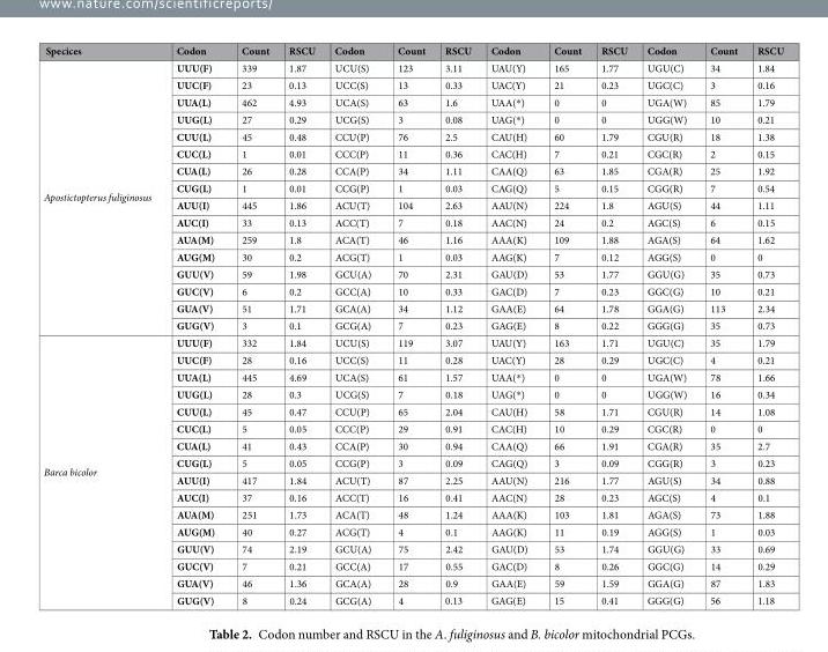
<table><thead><tr><td>Specices</td><td>Codon</td><td>Count</td><td>RSCU</td><td>Codon</td><td>Count</td><td>RSCU</td><td>Codon</td><td>Count</td><td>RSCU</td><td>Codon</td><td>Count</td><td>RSCU</td></tr></thead><tbody><tr><td rowspan="16">Apostictopterus fuliginosus</td><td>UUU(F)</td><td>339</td><td>1.87</td><td>UCU(S)</td><td>123</td><td>3.11</td><td>UAU(Y)</td><td>165</td><td>1.77</td><td>UGU(C)</td><td>34</td><td>1.84</td></tr><tr><td>UUC(F)</td><td>23</td><td>0.13</td><td>UCC(S)</td><td>13</td><td>0.33</td><td>UAC(Y)</td><td>21</td><td>0.23</td><td>UGC(C)</td><td>3</td><td>0.16</td></tr><tr><td>UUA(L)</td><td>462</td><td>4.93</td><td>UCA(S)</td><td>63</td><td>1.6</td><td>UAA(*)</td><td>0</td><td>0</td><td>UGA(W)</td><td>85</td><td>1.79</td></tr><tr><td>UUG(L)</td><td>27</td><td>0.29</td><td>UCG(S)</td><td>3</td><td>0.08</td><td>UAG(*)</td><td>0</td><td>0</td><td>UGG(W)</td><td>10</td><td>0.21</td></tr><tr><td>CUU(L)</td><td>45</td><td>0.48</td><td>CCU(P)</td><td>76</td><td>2.5</td><td>CAU(H)</td><td>60</td><td>1.79</td><td>CGU(R)</td><td>18</td><td>1.38</td></tr><tr><td>CUC(L)</td><td>1</td><td>0.01</td><td>CCC(P)</td><td>11</td><td>0.36</td><td>CAC(H)</td><td>7</td><td>0.21</td><td>CGC(R)</td><td>2</td><td>0.15</td></tr><tr><td>CUA(L)</td><td>26</td><td>0.28</td><td>CCA(P)</td><td>34</td><td>1.11</td><td>CAA(Q)</td><td>63</td><td>1.85</td><td>CGA(R)</td><td>25</td><td>1.92</td></tr><tr><td>CUG(L)</td><td>1</td><td>0.01</td><td>CCG(P)</td><td>1</td><td>0.03</td><td>CAG(Q)</td><td>5</td><td>0.15</td><td>CGG(R)</td><td>7</td><td>0.54</td></tr><tr><td>AUU(I)</td><td>445</td><td>1.86</td><td>ACU(T)</td><td>104</td><td>2.63</td><td>AAU(N)</td><td>224</td><td>1.8</td><td>AGU(S)</td><td>44</td><td>1.11</td></tr><tr><td>AUC(I)</td><td>33</td><td>0.13</td><td>ACC(T)</td><td>7</td><td>0.18</td><td>AAC(N)</td><td>24</td><td>0.2</td><td>AGC(S)</td><td>6</td><td>0.15</td></tr><tr><td>AUA(M)</td><td>259</td><td>1.8</td><td>ACA(T)</td><td>46</td><td>1.16</td><td>AAA(K)</td><td>109</td><td>1.88</td><td>AGA(S)</td><td>64</td><td>1.62</td></tr><tr><td>AUG(M)</td><td>30</td><td>0.2</td><td>ACG(T)</td><td>1</td><td>0.03</td><td>AAG(K)</td><td>7</td><td>0.12</td><td>AGG(S)</td><td>0</td><td>0</td></tr><tr><td>GUU(V)</td><td>59</td><td>1.98</td><td>GCU(A)</td><td>70</td><td>2.31</td><td>GAU(D)</td><td>53</td><td>1.77</td><td>GGU(G)</td><td>35</td><td>0.73</td></tr><tr><td>GUC(V)</td><td>6</td><td>0.2</td><td>GCC(A)</td><td>10</td><td>0.33</td><td>GAC(D)</td><td>7</td><td>0.23</td><td>GGC(G)</td><td>10</td><td>0.21</td></tr><tr><td>GUA(V)</td><td>51</td><td>1.71</td><td>GCA(A)</td><td>34</td><td>1.12</td><td>GAA(E)</td><td>64</td><td>1.78</td><td>GGA(G)</td><td>113</td><td>2.34</td></tr><tr><td>GUG(V)</td><td>3</td><td>0.1</td><td>GCG(A)</td><td>7</td><td>0.23</td><td>GAG(E)</td><td>8</td><td>0.22</td><td>GGG(G)</td><td>35</td><td>0.73</td></tr><tr><td rowspan="16">Barca bicolor</td><td>UUU(F)</td><td>332</td><td>1.84</td><td>UCU(S)</td><td>119</td><td>3.07</td><td>UAU(Y)</td><td>163</td><td>1.71</td><td>UGU(C)</td><td>35</td><td>1.79</td></tr><tr><td>UUC(F)</td><td>28</td><td>0.16</td><td>UCC(S)</td><td>11</td><td>0.28</td><td>UAC(Y)</td><td>28</td><td>0.29</td><td>UGC(C)</td><td>4</td><td>0.21</td></tr><tr><td>UUA(L)</td><td>445</td><td>4.69</td><td>UCA(S)</td><td>61</td><td>1.57</td><td>UAA(*)</td><td>0</td><td>0</td><td>UGA(W)</td><td>78</td><td>1.66</td></tr><tr><td>UUG(L)</td><td>28</td><td>0.3</td><td>UCG(S)</td><td>7</td><td>0.18</td><td>UAG(*)</td><td>0</td><td>0</td><td>UGG(W)</td><td>16</td><td>0.34</td></tr><tr><td>CUU(L)</td><td>45</td><td>0.47</td><td>CCU(P)</td><td>65</td><td>2.04</td><td>CAU(H)</td><td>58</td><td>1.71</td><td>CGU(R)</td><td>14</td><td>1.08</td></tr><tr><td>CUC(L)</td><td>5</td><td>0.05</td><td>CCC(P)</td><td>29</td><td>0.91</td><td>CAC(H)</td><td>10</td><td>0.29</td><td>CGC(R)</td><td>0</td><td>0</td></tr><tr><td>CUA(L)</td><td>41</td><td>0.43</td><td>CCA(P)</td><td>30</td><td>0.94</td><td>CAA(Q)</td><td>66</td><td>1.91</td><td>CGA(R)</td><td>35</td><td>2.7</td></tr><tr><td>CUG(L)</td><td>5</td><td>0.05</td><td>CCG(P)</td><td>3</td><td>0.09</td><td>CAG(Q)</td><td>3</td><td>0.09</td><td>CGG(R)</td><td>3</td><td>0.23</td></tr><tr><td>AUU(I)</td><td>417</td><td>1.84</td><td>ACU(T)</td><td>87</td><td>2.25</td><td>AAU(N)</td><td>216</td><td>1.77</td><td>AGU(S)</td><td>34</td><td>0.88</td></tr><tr><td>AUC(I)</td><td>37</td><td>0.16</td><td>ACC(T)</td><td>16</td><td>0.41</td><td>AAC(N)</td><td>28</td><td>0.23</td><td>AGC(S)</td><td>4</td><td>0.1</td></tr><tr><td>AUA(M)</td><td>251</td><td>1.73</td><td>ACA(T)</td><td>48</td><td>1.24</td><td>AAA(K)</td><td>103</td><td>1.81</td><td>AGA(S)</td><td>73</td><td>1.88</td></tr><tr><td>AUG(M)</td><td>40</td><td>0.27</td><td>ACG(T)</td><td>4</td><td>0.1</td><td>AAG(K)</td><td>11</td><td>0.19</td><td>AGG(S)</td><td>1</td><td>0.03</td></tr><tr><td>GUU(V)</td><td>74</td><td>2.19</td><td>GCU(A)</td><td>75</td><td>2.42</td><td>GAU(D)</td><td>53</td><td>1.74</td><td>GGU(G)</td><td>33</td><td>0.69</td></tr><tr><td>GUC(V)</td><td>7</td><td>0.21</td><td>GCC(A)</td><td>17</td><td>0.55</td><td>GAC(D)</td><td>8</td><td>0.26</td><td>GGC(G)</td><td>14</td><td>0.29</td></tr><tr><td>GUA(V)</td><td>46</td><td>1.36</td><td>GCA(A)</td><td>28</td><td>0.9</td><td>GAA(E)</td><td>59</td><td>1.59</td><td>GGA(G)</td><td>87</td><td>1.83</td></tr><tr><td>GUG(V)</td><td>8</td><td>0.24</td><td>GCG(A)</td><td>4</td><td>0.13</td><td>GAG(E)</td><td>15</td><td>0.41</td><td>GGG(G)</td><td>56</td><td>1.18</td></tr></tbody></table>